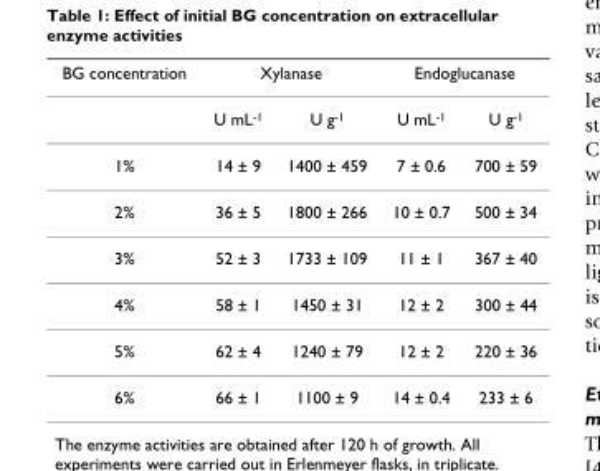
<table><thead><tr><td rowspan="2">BG concentration</td><td colspan="2">Xylanase</td><td colspan="2">Endoglucanase</td></tr><tr><td>U mL<sup>-1</sup></td><td>U g<sup>-1</sup></td><td>U mL<sup>-1</sup></td><td>U g<sup>-1</sup></td></tr></thead><tbody><tr><td>1%</td><td>14 ± 9</td><td>1400 ± 459</td><td>7 ± 0.6</td><td>700 ± 59</td></tr><tr><td>2%</td><td>36 ± 5</td><td>1800 ± 266</td><td>10 ± 0.7</td><td>500 ± 34</td></tr><tr><td>3%</td><td>52 ± 3</td><td>1733 ± 109</td><td>11 ± 1</td><td>367 ± 40</td></tr><tr><td>4%</td><td>58 ± 1</td><td>1450 ± 31</td><td>12 ± 2</td><td>300 ± 44</td></tr><tr><td>5%</td><td>62 ± 4</td><td>1240 ± 79</td><td>12 ± 2</td><td>220 ± 36</td></tr><tr><td>6%</td><td>66 ± 1</td><td>1100 ± 9</td><td>14 ± 0.4</td><td>233 ± 6</td></tr></tbody></table>